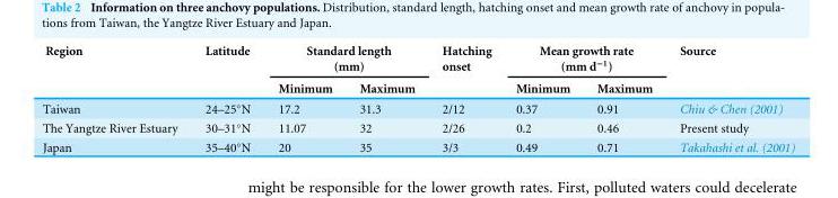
<table><thead><tr><td rowspan="2">Region</td><td rowspan="2">Latitude</td><td colspan="2">Standard length (mm)</td><td rowspan="2">Hatching onset</td><td colspan="2">Mean growth rate (mm d<sup>−1</sup>)</td><td rowspan="2">Source</td></tr><tr><td>Minimum</td><td>Maximum</td><td>Minimum</td><td>Maximum</td></tr></thead><tbody><tr><td>Taiwan</td><td>24–25◦N</td><td>17.2</td><td>31.3</td><td>2/12</td><td>0.37</td><td>0.91</td><td>Chiu &amp; Chen (2001)</td></tr><tr><td>The Yangtze River Estuary</td><td>30–31◦N</td><td>11.07</td><td>32</td><td>2/26</td><td>0.2</td><td>0.46</td><td>Present study</td></tr><tr><td>Japan</td><td>35–40◦N</td><td>20</td><td>35</td><td>3/3</td><td>0.49</td><td>0.71</td><td>Takahashi et al. (2001)</td></tr></tbody></table>